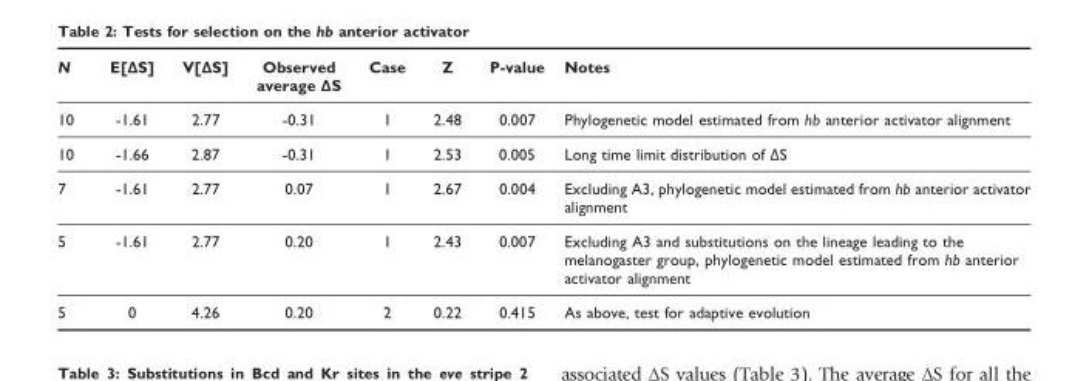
<table><thead><tr><td>N</td><td>E[ΔS]</td><td>V[ΔS]</td><td>Observed average ΔS</td><td>Case</td><td>Z</td><td>P-value</td><td>Notes</td></tr></thead><tbody><tr><td>10</td><td>-1.61</td><td>2.77</td><td>-0.31</td><td>1</td><td>2.48</td><td>0.007</td><td>Phylogenetic model estimated from hb anterior activator alignment</td></tr><tr><td>10</td><td>-1.66</td><td>2.87</td><td>-0.31</td><td>1</td><td>2.53</td><td>0.005</td><td>Long time limit distribution of ΔS</td></tr><tr><td>7</td><td>-1.61</td><td>2.77</td><td>0.07</td><td>1</td><td>2.67</td><td>0.004</td><td>Excluding A3, phylogenetic model estimated from hb anterior activator alignment</td></tr><tr><td>5</td><td>-1.61</td><td>2.77</td><td>0.20</td><td>1</td><td>2.43</td><td>0.007</td><td>Excluding A3 and substitutions on the lineage leading to the melanogaster group, phylogenetic model estimated from hb anterior activator alignment</td></tr><tr><td>5</td><td>0</td><td>4.26</td><td>0.20</td><td>2</td><td>0.22</td><td>0.415</td><td>As above, test for adaptive evolution</td></tr></tbody></table>